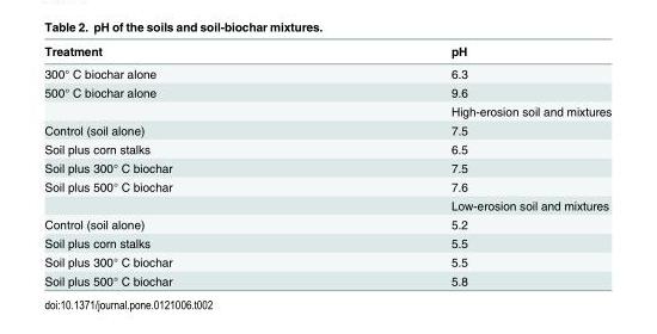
<table><thead><tr><td>Treatment</td><td>pH</td></tr></thead><tbody><tr><td>300° C biochar alone</td><td>6.3</td></tr><tr><td rowspan="2">500° C biochar alone</td><td>9.6</td></tr><tr><td>High-erosion soil and mixtures</td></tr><tr><td>Control (soil alone)</td><td>7.5</td></tr><tr><td>Soil plus corn stalks</td><td>6.5</td></tr><tr><td>Soil plus 300° C biochar</td><td>7.5</td></tr><tr><td rowspan="2">Soil plus 500° C biochar</td><td>7.6</td></tr><tr><td>Low-erosion soil and mixtures</td></tr><tr><td>Control (soil alone)</td><td>5.2</td></tr><tr><td>Soil plus corn stalks</td><td>5.5</td></tr><tr><td>Soil plus 300° C biochar</td><td>5.5</td></tr><tr><td>Soil plus 500° C biochar</td><td>5.8</td></tr></tbody></table>